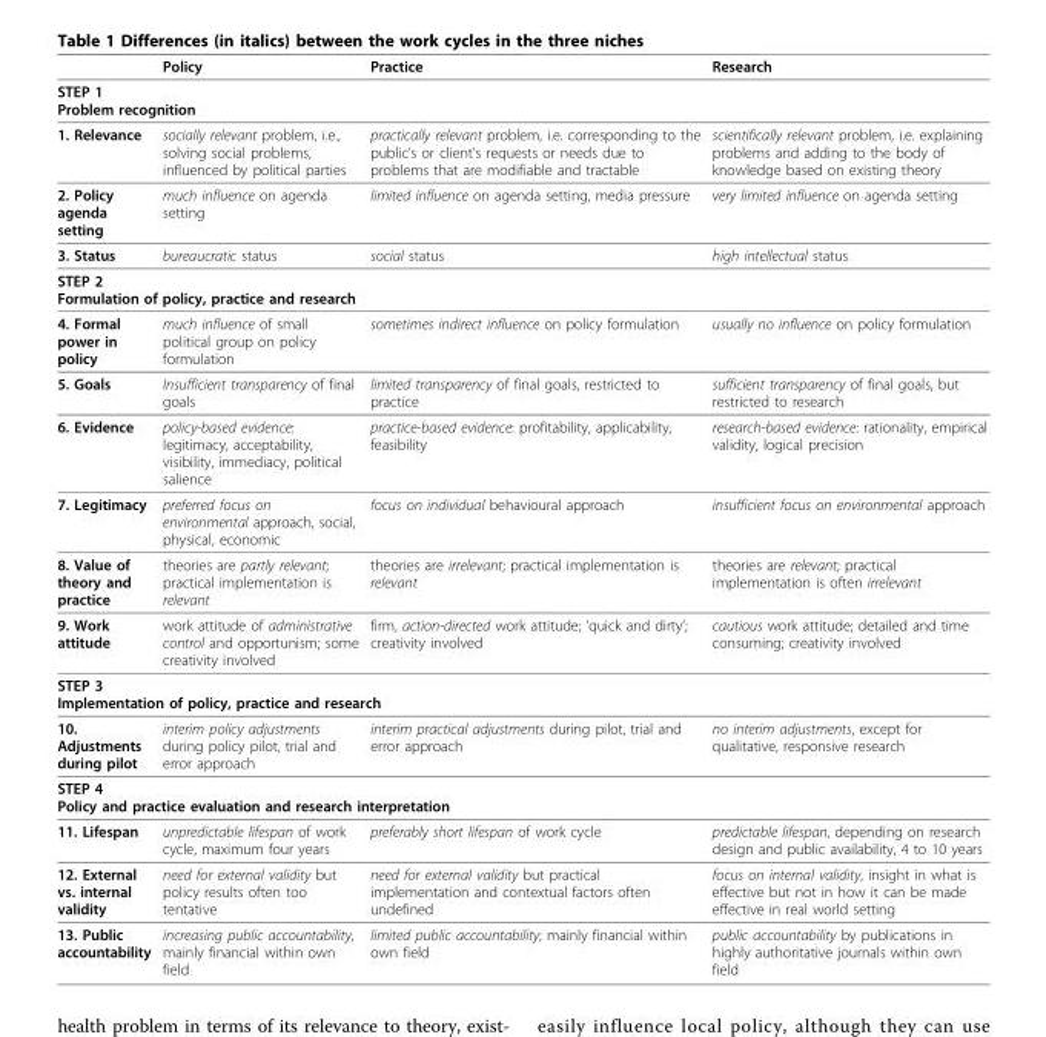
<table><thead><tr><td></td><td>Policy</td><td>Practice</td><td>Research</td></tr></thead><tbody><tr><td colspan="4">STEP 1 Problem recognition</td></tr><tr><td>1. Relevance</td><td>socially relevant problem, i.e., solving social problems, influenced by political parties</td><td>practically relevant problem, i.e. corresponding to the public’s or client’s requests or needs due to problems that are modifiable and tractable</td><td>scientifically relevant problem, i.e. explaining problems and adding to the body of knowledge based on existing theory</td></tr><tr><td>2. Policy agenda setting</td><td>much influence on agenda setting</td><td>limited influence on agenda setting, media pressure</td><td>very limited influence on agenda setting</td></tr><tr><td>3. Status</td><td>bureaucratic status</td><td>social status</td><td>high intellectual status</td></tr><tr><td colspan="4">STEP 2 Formulation of policy, practice and research</td></tr><tr><td>4. Formal power in policy</td><td>much influence of small political group on policy formulation</td><td>sometimes indirect influence on policy formulation</td><td>usually no influence on policy formulation</td></tr><tr><td>5. Goals</td><td>Insufficient transparency of final goals</td><td>limited transparency of final goals, restricted to practice</td><td>sufficient transparency of final goals, but restricted to research</td></tr><tr><td>6. Evidence</td><td>policy-based evidence: legitimacy, acceptability, visibility, immediacy, political salience</td><td>practice-based evidence: profitability, applicability, feasibility</td><td>research-based evidence: rationality, empirical validity, logical precision</td></tr><tr><td>7. Legitimacy</td><td>preferred focus on environmental approach, social, physical, economic</td><td>focus on individual behavioural approach</td><td>insufficient focus on environmental approach</td></tr><tr><td>8. Value of theory and practice</td><td>theories are partly relevant; practical implementation is relevant</td><td>theories are irrelevant; practical implementation is relevant</td><td>theories are relevant; practical implementation is often irrelevant</td></tr><tr><td>9. Work attitude</td><td>work attitude of administrative control and opportunism; some creativity involved</td><td>firm, action-directed work attitude; ‘quick and dirty’; creativity involved</td><td>cautious work attitude; detailed and time consuming; creativity involved</td></tr><tr><td colspan="4">STEP 3 Implementation of policy, practice and research</td></tr><tr><td>10. Adjustments during pilot</td><td>interim policy adjustments during policy pilot, trial and error approach</td><td>interim practical adjustments during pilot, trial and error approach</td><td>no interim adjustments, except for qualitative, responsive research</td></tr><tr><td colspan="4">STEP 4 Policy and practice evaluation and research interpretation</td></tr><tr><td>11. Lifespan</td><td>unpredictable lifespan of work cycle, maximum four years</td><td>preferably short lifespan of work cycle</td><td>predictable lifespan, depending on research design and public availability, 4 to 10 years</td></tr><tr><td>12. External vs. internal validity</td><td>need for external validity but policy results often too tentative</td><td>need for external validity but practical implementation and contextual factors often undefined</td><td>focus on internal validity, insight in what is effective but not in how it can be made effective in real world setting</td></tr><tr><td>13. Public accountability</td><td>increasing public accountability, mainly financial within own field</td><td>limited public accountability; mainly financial within own field</td><td>public accountability by publications in highly authoritative journals within own field</td></tr></tbody></table>